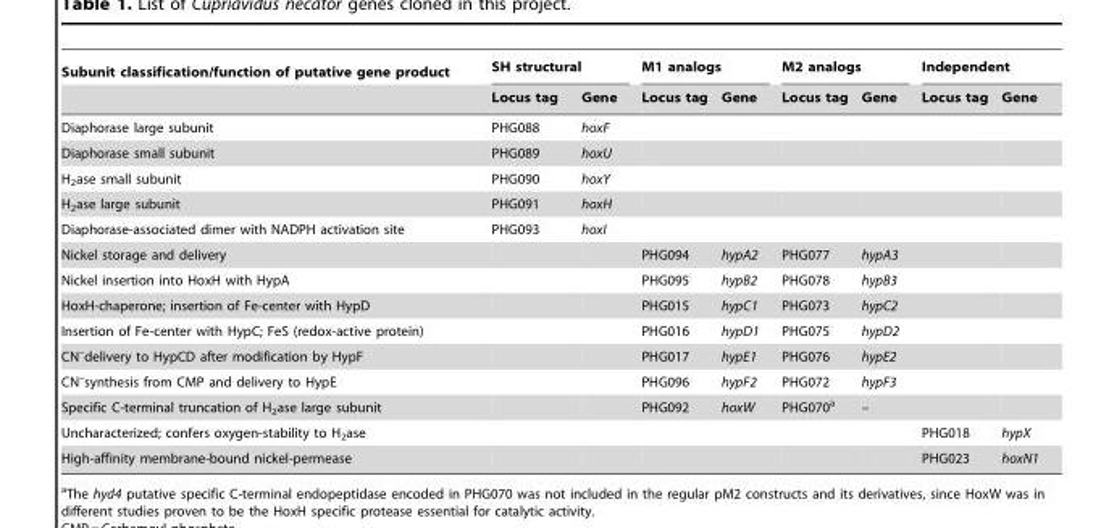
<table><thead><tr><td rowspan="2">Subunit classification/function of putative gene product</td><td colspan="2">SH structural</td><td colspan="2">M1 analogs</td><td colspan="2">M2 analogs</td><td colspan="2">Independent</td></tr><tr><td>Locus tag</td><td>Gene</td><td>Locus tag</td><td>Gene</td><td>Locus tag</td><td>Gene</td><td>Locus tag</td><td>Gene</td></tr></thead><tbody><tr><td>Diaphorase large subunit</td><td>PHG088</td><td>hoxF</td><td></td><td></td><td></td><td></td><td></td><td></td></tr><tr><td>Diaphorase small subunit</td><td>PHG089</td><td>hoxU</td><td></td><td></td><td></td><td></td><td></td><td></td></tr><tr><td>H<sub>2</sub>ase small subunit</td><td>PHG090</td><td>hoxY</td><td></td><td></td><td></td><td></td><td></td><td></td></tr><tr><td>H<sub>2</sub>ase large subunit</td><td>PHG091</td><td>hoxH</td><td></td><td></td><td></td><td></td><td></td><td></td></tr><tr><td>Diaphorase-associated dimer with NADPH activation site</td><td>PHG093</td><td>hoxI</td><td></td><td></td><td></td><td></td><td></td><td></td></tr><tr><td>Nickel storage and delivery</td><td></td><td></td><td>PHG094</td><td>hypA2</td><td>PHG077</td><td>hypA3</td><td></td><td></td></tr><tr><td>Nickel insertion into HoxH with HypA</td><td></td><td></td><td>PHG095</td><td>hypB2</td><td>PHG078</td><td>hypB3</td><td></td><td></td></tr><tr><td>HoxH-chaperone; insertion of Fe-center with HypD</td><td></td><td></td><td>PHG015</td><td>hypC1</td><td>PHG073</td><td>hypC2</td><td></td><td></td></tr><tr><td>Insertion of Fe-center with HypC; FeS (redox-active protein)</td><td></td><td></td><td>PHG016</td><td>hypD1</td><td>PHG075</td><td>hypD2</td><td></td><td></td></tr><tr><td>CN<sup>–</sup>delivery to HypCD after modification by HypF</td><td></td><td></td><td>PHG017</td><td>hypE1</td><td>PHG076</td><td>hypE2</td><td></td><td></td></tr><tr><td>CN<sup>–</sup>synthesis from CMP and delivery to HypE</td><td></td><td></td><td>PHG096</td><td>hypF2</td><td>PHG072</td><td>hypF3</td><td></td><td></td></tr><tr><td>Specific C-terminal truncation of H<sub>2</sub>ase large subunit</td><td></td><td></td><td>PHG092</td><td>hoxW</td><td>PHG070<sup>a</sup></td><td>–</td><td></td><td></td></tr><tr><td>Uncharacterized; confers oxygen-stability to H<sub>2</sub>ase</td><td></td><td></td><td></td><td></td><td></td><td></td><td>PHG018</td><td>hypX</td></tr><tr><td>High-affinity membrane-bound nickel-permease</td><td></td><td></td><td></td><td></td><td></td><td></td><td>PHG023</td><td>hoxN1</td></tr></tbody></table>